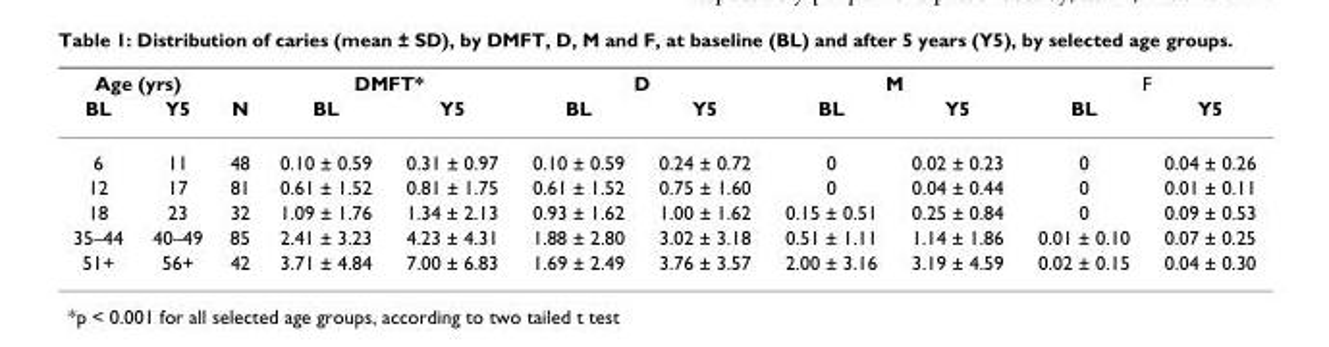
<table><thead><tr><td colspan="2">Age (yrs)</td><td rowspan="2">N</td><td colspan="2">DMFT*</td><td colspan="2">D</td><td colspan="2">M</td><td colspan="2">F</td></tr><tr><td>BL</td><td>Y5</td><td>BL</td><td>Y5</td><td>BL</td><td>Y5</td><td>BL</td><td>Y5</td><td>BL</td><td>Y5</td></tr></thead><tbody><tr><td>6</td><td>11</td><td>48</td><td>0.10 ± 0.59</td><td>0.31 ± 0.97</td><td>0.10 ± 0.59</td><td>0.24 ± 0.72</td><td>0</td><td>0.02 ± 0.23</td><td>0</td><td>0.04 ± 0.26</td></tr><tr><td>12</td><td>17</td><td>81</td><td>0.61 ± 1.52</td><td>0.81 ± 1.75</td><td>0.61 ± 1.52</td><td>0.75 ± 1.60</td><td>0</td><td>0.04 ± 0.44</td><td>0</td><td>0.01 ± 0.11</td></tr><tr><td>18</td><td>23</td><td>32</td><td>1.09 ± 1.76</td><td>1.34 ± 2.13</td><td>0.93 ± 1.62</td><td>1.00 ± 1.62</td><td>0.15 ± 0.51</td><td>0.25 ± 0.84</td><td>0</td><td>0.09 ± 0.53</td></tr><tr><td>35–44</td><td>40–49</td><td>85</td><td>2.41 ± 3.23</td><td>4.23 ± 4.31</td><td>1.88 ± 2.80</td><td>3.02 ± 3.18</td><td>0.51 ± 1.11</td><td>1.14 ± 1.86</td><td>0.01 ± 0.10</td><td>0.07 ± 0.25</td></tr><tr><td>51+</td><td>56+</td><td>42</td><td>3.71 ± 4.84</td><td>7.00 ± 6.83</td><td>1.69 ± 2.49</td><td>3.76 ± 3.57</td><td>2.00 ± 3.16</td><td>3.19 ± 4.59</td><td>0.02 ± 0.15</td><td>0.04 ± 0.30</td></tr></tbody></table>